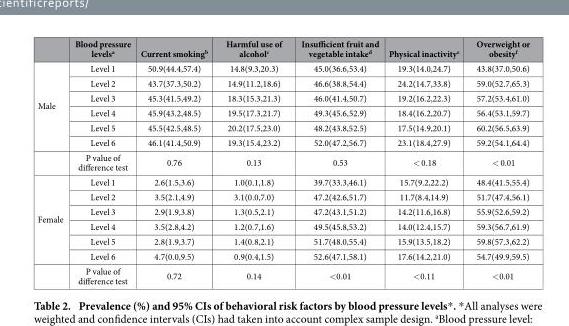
<table><thead><tr><td></td><td>Blood pressure levels<sup>a</sup></td><td>Current smoking<sup>b</sup></td><td>Harmful use of alcohol<sup>c</sup></td><td>Insufficient fruit and vegetable intake<sup>d</sup></td><td>Physical inactivity<sup>e</sup></td><td>Overweight or obesity<sup>f</sup></td></tr></thead><tbody><tr><td rowspan="7">Male</td><td>Level 1</td><td>50.9(44.4,57.4)</td><td>14.8(9.3,20.3)</td><td>45.0(36.6,53.4)</td><td>19.3(14.0,24.7)</td><td>43.8(37.0,50.6)</td></tr><tr><td>Level 2</td><td>43.7(37.3,50.2)</td><td>14.9(11.2,18.6)</td><td>46.6(38.8,54.4)</td><td>24.2(14.7,33.8)</td><td>59.0(52.7,65.3)</td></tr><tr><td>Level 3</td><td>45.3(41.5,49.2)</td><td>18.3(15.3,21.3)</td><td>46.0(41.4,50.7)</td><td>19.2(16.2,22.3)</td><td>57.2(53.4,61.0)</td></tr><tr><td>Level 4</td><td>45.9(43.2,48.5)</td><td>19.5(17.3,21.7)</td><td>49.3(45.6,52.9)</td><td>18.4(16.2,20.7)</td><td>56.4(53.1,59.7)</td></tr><tr><td>Level 5</td><td>45.5(42.5,48.5)</td><td>20.2(17.5,23.0)</td><td>48.2(43.8,52.5)</td><td>17.5(14.9,20.1)</td><td>60.2(56.5,63.9)</td></tr><tr><td>Level 6</td><td>46.1(41.4,50.9)</td><td>19.3(15.4,23.2)</td><td>52.0(47.2,56.7)</td><td>23.1(18.4,27.9)</td><td>59.2(54.1,64.4)</td></tr><tr><td>P value of difference test</td><td>0.76</td><td>0.13</td><td>0.53</td><td>&lt; 0.18</td><td>&lt; 0.01</td></tr><tr><td rowspan="7">Female</td><td>Level 1</td><td>2.6(1.5,3.6)</td><td>1.0(0.1,1.8)</td><td>39.7(33.3,46.1)</td><td>15.7(9.2,22.2)</td><td>48.4(41.5,55.4)</td></tr><tr><td>Level 2</td><td>3.5(2.1,4.9)</td><td>3.1(0.0,7.0)</td><td>47.2(42.6,51.7)</td><td>11.7(8.4,14.9)</td><td>51.7(47.4,56.1)</td></tr><tr><td>Level 3</td><td>2.9(1.9,3.8)</td><td>1.3(0.5,2.1)</td><td>47.2(43.1,51.2)</td><td>14.2(11.6,16.8)</td><td>55.9(52.6,59.2)</td></tr><tr><td>Level 4</td><td>3.5(2.8,4.2)</td><td>1.2(0.7,1.6)</td><td>49.5(45.8,53.2)</td><td>14.0(12.4,15.7)</td><td>59.3(56.7,61.9)</td></tr><tr><td>Level 5</td><td>2.8(1.9,3.7)</td><td>1.4(0.8,2.1)</td><td>51.7(48.0,55.4)</td><td>15.9(13.5,18.2)</td><td>59.8(57.3,62.2)</td></tr><tr><td>Level 6</td><td>4.7(0.0,9.5)</td><td>0.9(0.4,1.5)</td><td>52.6(47.1,58.1)</td><td>17.6(14.2,21.0)</td><td>54.7(49.9,59.5)</td></tr><tr><td>P value of difference test</td><td>0.72</td><td>0.14</td><td>&lt; 0.01</td><td>&lt; 0.11</td><td>&lt; 0.01</td></tr></tbody></table>